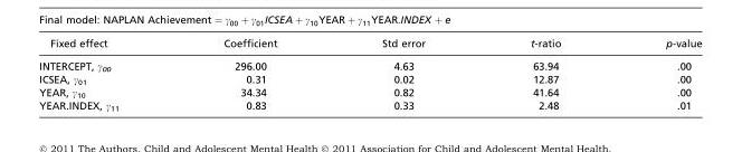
<table><thead><tr><td>Fixed effect</td><td>Coefficient</td><td>Std error</td><td>t-ratio</td><td>p-value</td></tr></thead><tbody><tr><td>INTERCEPT, γ<sub>00</sub></td><td>296.00</td><td>4.63</td><td>63.94</td><td>.00</td></tr><tr><td>ICSEA, γ<sub>01</sub></td><td>0.31</td><td>0.02</td><td>12.87</td><td>.00</td></tr><tr><td>YEAR, γ<sub>10</sub></td><td>34.34</td><td>0.82</td><td>41.64</td><td>.00</td></tr><tr><td>YEAR.INDEX, γ<sub>11</sub></td><td>0.83</td><td>0.33</td><td>2.48</td><td>.01</td></tr></tbody></table>